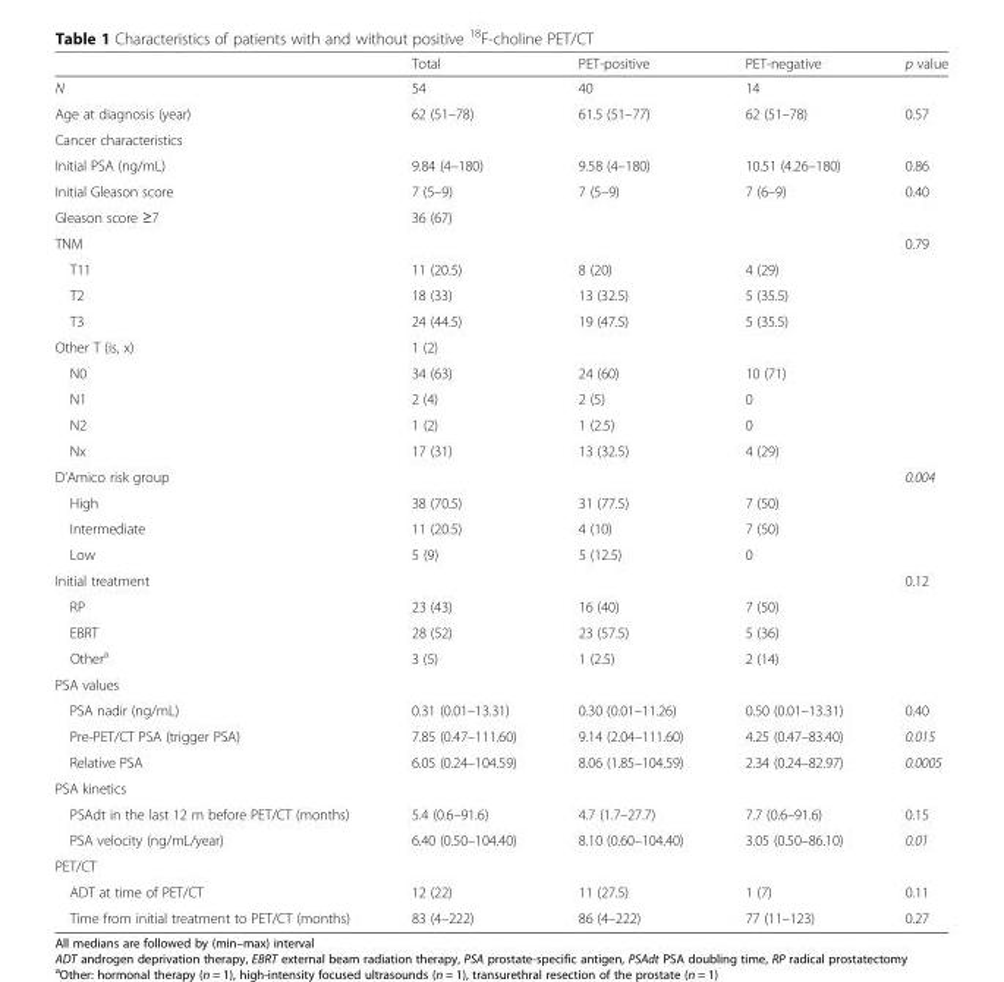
<table><thead><tr><td></td><td>Total</td><td>PET-positive</td><td>PET-negative</td><td>p value</td></tr></thead><tbody><tr><td>N</td><td>54</td><td>40</td><td>14</td><td></td></tr><tr><td>Age at diagnosis (year)</td><td>62 (51–78)</td><td>61.5 (51–77)</td><td>62 (51–78)</td><td>0.57</td></tr><tr><td colspan="5">Cancer characteristics</td></tr><tr><td>Initial PSA (ng/mL)</td><td>9.84 (4–180)</td><td>9.58 (4–180)</td><td>10.51 (4.26–180)</td><td>0.86</td></tr><tr><td>Initial Gleason score</td><td>7 (5–9)</td><td>7 (5–9)</td><td>7 (6–9)</td><td>0.40</td></tr><tr><td>Gleason score ≥7</td><td>36 (67)</td><td></td><td></td><td></td></tr><tr><td>TNM</td><td></td><td></td><td></td><td>0.79</td></tr><tr><td>T11</td><td>11 (20.5)</td><td>8 (20)</td><td>4 (29)</td><td></td></tr><tr><td>T2</td><td>18 (33)</td><td>13 (32.5)</td><td>5 (35.5)</td><td></td></tr><tr><td>T3</td><td>24 (44.5)</td><td>19 (47.5)</td><td>5 (35.5)</td><td></td></tr><tr><td>Other T (is, x)</td><td>1 (2)</td><td></td><td></td><td></td></tr><tr><td>N0</td><td>34 (63)</td><td>24 (60)</td><td>10 (71)</td><td></td></tr><tr><td>N1</td><td>2 (4)</td><td>2 (5)</td><td>0</td><td></td></tr><tr><td>N2</td><td>1 (2)</td><td>1 (2.5)</td><td>0</td><td></td></tr><tr><td>Nx</td><td>17 (31)</td><td>13 (32.5)</td><td>4 (29)</td><td></td></tr><tr><td>D’Amico risk group</td><td></td><td></td><td></td><td>0.004</td></tr><tr><td>High</td><td>38 (70.5)</td><td>31 (77.5)</td><td>7 (50)</td><td></td></tr><tr><td>Intermediate</td><td>11 (20.5)</td><td>4 (10)</td><td>7 (50)</td><td></td></tr><tr><td>Low</td><td>5 (9)</td><td>5 (12.5)</td><td>0</td><td></td></tr><tr><td>Initial treatment</td><td></td><td></td><td></td><td>0.12</td></tr><tr><td>RP</td><td>23 (43)</td><td>16 (40)</td><td>7 (50)</td><td></td></tr><tr><td>EBRT</td><td>28 (52)</td><td>23 (57.5)</td><td>5 (36)</td><td></td></tr><tr><td>Other<sup>a</sup></td><td>3 (5)</td><td>1 (2.5)</td><td>2 (14)</td><td></td></tr><tr><td colspan="5">PSA values</td></tr><tr><td>PSA nadir (ng/mL)</td><td>0.31 (0.01–13.31)</td><td>0.30 (0.01–11.26)</td><td>0.50 (0.01–13.31)</td><td>0.40</td></tr><tr><td>Pre-PET/CT PSA (trigger PSA)</td><td>7.85 (0.47–111.60)</td><td>9.14 (2.04–111.60)</td><td>4.25 (0.47–83.40)</td><td>0.015</td></tr><tr><td>Relative PSA</td><td>6.05 (0.24–104.59)</td><td>8.06 (1.85–104.59)</td><td>2.34 (0.24–82.97)</td><td>0.0005</td></tr><tr><td colspan="5">PSA kinetics</td></tr><tr><td>PSAdt in the last 12 m before PET/CT (months)</td><td>5.4 (0.6–91.6)</td><td>4.7 (1.7–27.7)</td><td>7.7 (0.6–91.6)</td><td>0.15</td></tr><tr><td>PSA velocity (ng/mL/year)</td><td>6.40 (0.50–104.40)</td><td>8.10 (0.60–104.40)</td><td>3.05 (0.50–86.10)</td><td>0.01</td></tr><tr><td colspan="5">PET/CT</td></tr><tr><td>ADT at time of PET/CT</td><td>12 (22)</td><td>11 (27.5)</td><td>1 (7)</td><td>0.11</td></tr><tr><td>Time from initial treatment to PET/CT (months)</td><td>83 (4–222)</td><td>86 (4–222)</td><td>77 (11–123)</td><td>0.27</td></tr></tbody></table>